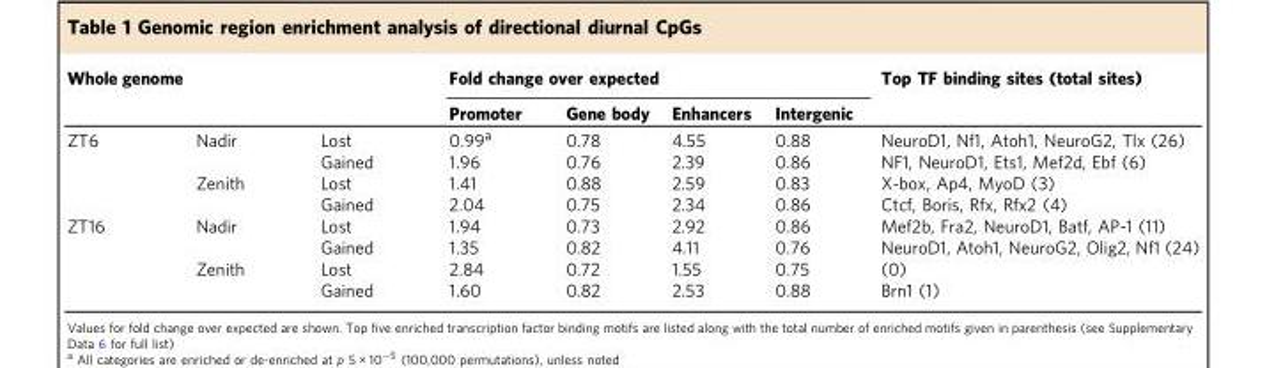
<table><thead><tr><td rowspan="2">Whole genome</td><td rowspan="2"></td><td rowspan="2"></td><td colspan="4">Fold change over expected</td><td rowspan="2">Top TF binding sites (total sites)</td></tr><tr><td>Promoter</td><td>Gene body</td><td>Enhancers</td><td>Intergenic</td></tr></thead><tbody><tr><td rowspan="4">ZT6</td><td rowspan="2">Nadir</td><td>Lost</td><td>0.99<sup>a</sup></td><td>0.78</td><td>4.55</td><td>0.88</td><td>NeuroD1, Nf1, Atoh1, NeuroG2, Tlx (26)</td></tr><tr><td>Gained</td><td>1.96</td><td>0.76</td><td>2.39</td><td>0.86</td><td>NF1, NeuroD1, Ets1, Mef2d, Ebf (6)</td></tr><tr><td rowspan="2">Zenith</td><td>Lost</td><td>1.41</td><td>0.88</td><td>2.59</td><td>0.83</td><td>X-box, Ap4, MyoD (3)</td></tr><tr><td>Gained</td><td>2.04</td><td>0.75</td><td>2.34</td><td>0.86</td><td>Ctcf, Boris, Rfx, Rfx2 (4)</td></tr><tr><td rowspan="4">ZT16</td><td rowspan="2">Nadir</td><td>Lost</td><td>1.94</td><td>0.73</td><td>2.92</td><td>0.86</td><td>Mef2b, Fra2, NeuroD1, Batf, AP-1 (11)</td></tr><tr><td>Gained</td><td>1.35</td><td>0.82</td><td>4.11</td><td>0.76</td><td>NeuroD1, Atoh1, NeuroG2, Olig2, Nf1 (24)</td></tr><tr><td rowspan="2">Zenith</td><td>Lost</td><td>2.84</td><td>0.72</td><td>1.55</td><td>0.75</td><td>(0)</td></tr><tr><td>Gained</td><td>1.60</td><td>0.82</td><td>2.53</td><td>0.88</td><td>Brn1 (1)</td></tr></tbody></table>